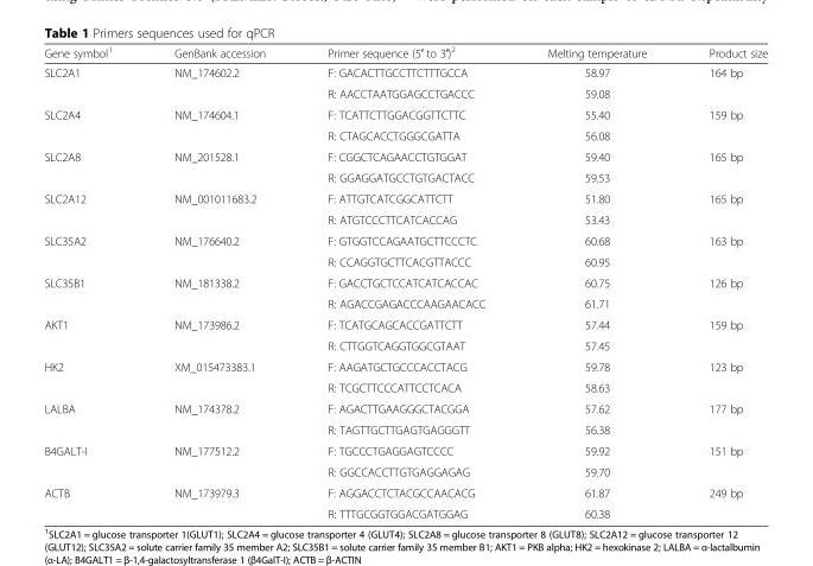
<table><thead><tr><td>Gene symbol<sup>1</sup></td><td>GenBank accession</td><td>Primer sequence (5′ to 3′)<sup>2</sup></td><td>Melting temperature</td><td>Product size</td></tr></thead><tbody><tr><td rowspan="2">SLC2A1</td><td rowspan="2">NM_174602.2</td><td>F: GACACTTGCCTTCTTTGCCA</td><td>58.97</td><td rowspan="2">164 bp</td></tr><tr><td>R: AACCTAATGGAGCCTGACCC</td><td>59.08</td></tr><tr><td rowspan="2">SLC2A4</td><td rowspan="2">NM_174604.1</td><td>F: TCATTCTTGGACGGTTCTTC</td><td>55.40</td><td rowspan="2">159 bp</td></tr><tr><td>R: CTAGCACCTGGGCGATTA</td><td>56.08</td></tr><tr><td rowspan="2">SLC2A8</td><td>NM_201528.1</td><td>F: CGGCTCAGAACCTGTGGAT</td><td>59.40</td><td>165 bp</td></tr><tr><td></td><td>R: GGAGGATGCCTGTGACTACC</td><td>59.53</td><td></td></tr><tr><td rowspan="2">SLC2A12</td><td rowspan="2">NM_001011683.2</td><td>F: ATTGTCATCGGCATTCTT</td><td>51.80</td><td rowspan="2">165 bp</td></tr><tr><td>R: ATGTCCCTTCATCACCAG</td><td>53.43</td></tr><tr><td rowspan="2">SLC35A2</td><td>NM_176640.2</td><td>F: GTGGTCCAGAATGCTTCCCTC</td><td>60.68</td><td>163 bp</td></tr><tr><td></td><td>R: CCAGGTGCTTCACGTTACCC</td><td>60.95</td><td></td></tr><tr><td rowspan="2">SLC35B1</td><td>NM_181338.2</td><td>F: GACCTGCTCCATCATCACCAC</td><td>60.75</td><td>126 bp</td></tr><tr><td></td><td>R: AGACCGAGACCCAAGAACACC</td><td>61.71</td><td></td></tr><tr><td rowspan="2">AKT1</td><td rowspan="2">NM_173986.2</td><td>F: TCATGCAGCACCGATTCTT</td><td>57.44</td><td rowspan="2">159 bp</td></tr><tr><td>R: CTTGGTCAGGTGGCGTAAT</td><td>57.45</td></tr><tr><td rowspan="2">HK2</td><td rowspan="2">XM_015473383.1</td><td>F: AAGATGCTGCCCACCTACG</td><td>59.78</td><td rowspan="2">123 bp</td></tr><tr><td>R: TCGCTTCCCATTCCTCACA</td><td>58.63</td></tr><tr><td rowspan="2">LALBA</td><td rowspan="2">NM_174378.2</td><td>F: AGACTTGAAGGGCTACGGA</td><td>57.62</td><td rowspan="2">177 bp</td></tr><tr><td>R: TAGTTGCTTGAGTGAGGGTT</td><td>56.38</td></tr><tr><td rowspan="2">B4GALT-I</td><td rowspan="2">NM_177512.2</td><td>F: TGCCCTGAGGAGTCCCC</td><td>59.92</td><td rowspan="2">151 bp</td></tr><tr><td>R: GGCCACCTTGTGAGGAGAG</td><td>59.70</td></tr><tr><td rowspan="2">ACTB</td><td rowspan="2">NM_173979.3</td><td>F: AGGACCTCTACGCCAACACG</td><td>61.87</td><td rowspan="2">249 bp</td></tr><tr><td>R: TTTGCGGTGGACGATGGAG</td><td>60.38</td></tr></tbody></table>